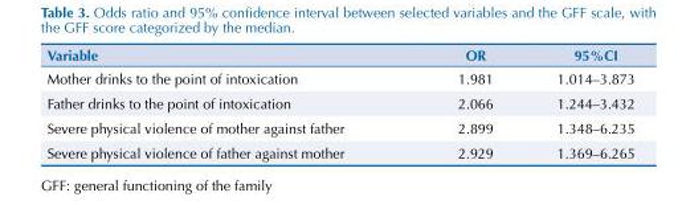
<table><thead><tr><td>Variable</td><td>OR</td><td>95%CI</td></tr></thead><tbody><tr><td>Mother drinks to the point of intoxication</td><td>1.981</td><td>1.014–3.873</td></tr><tr><td>Father drinks to the point of intoxication</td><td>2.066</td><td>1.244–3.432</td></tr><tr><td>Severe physical violence of mother against father</td><td>2.899</td><td>1.348–6.235</td></tr><tr><td>Severe physical violence of father against mother</td><td>2.929</td><td>1.369–6.265</td></tr></tbody></table>